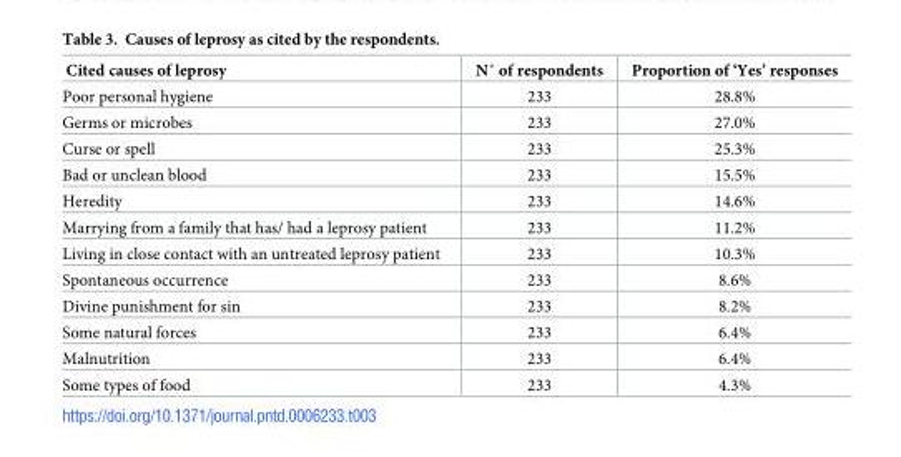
<table><thead><tr><td>Cited causes of leprosy</td><td>N˚ of respondents</td><td>Proportion of ‘Yes’ responses</td></tr></thead><tbody><tr><td>Poor personal hygiene</td><td>233</td><td>28.8%</td></tr><tr><td>Germs or microbes</td><td>233</td><td>27.0%</td></tr><tr><td>Curse or spell</td><td>233</td><td>25.3%</td></tr><tr><td>Bad or unclean blood</td><td>233</td><td>15.5%</td></tr><tr><td>Heredity</td><td>233</td><td>14.6%</td></tr><tr><td>Marrying from a family that has/ had a leprosy patient</td><td>233</td><td>11.2%</td></tr><tr><td>Living in close contact with an untreated leprosy patient</td><td>233</td><td>10.3%</td></tr><tr><td>Spontaneous occurrence</td><td>233</td><td>8.6%</td></tr><tr><td>Divine punishment for sin</td><td>233</td><td>8.2%</td></tr><tr><td>Some natural forces</td><td>233</td><td>6.4%</td></tr><tr><td>Malnutrition</td><td>233</td><td>6.4%</td></tr><tr><td>Some types of food</td><td>233</td><td>4.3%</td></tr></tbody></table>